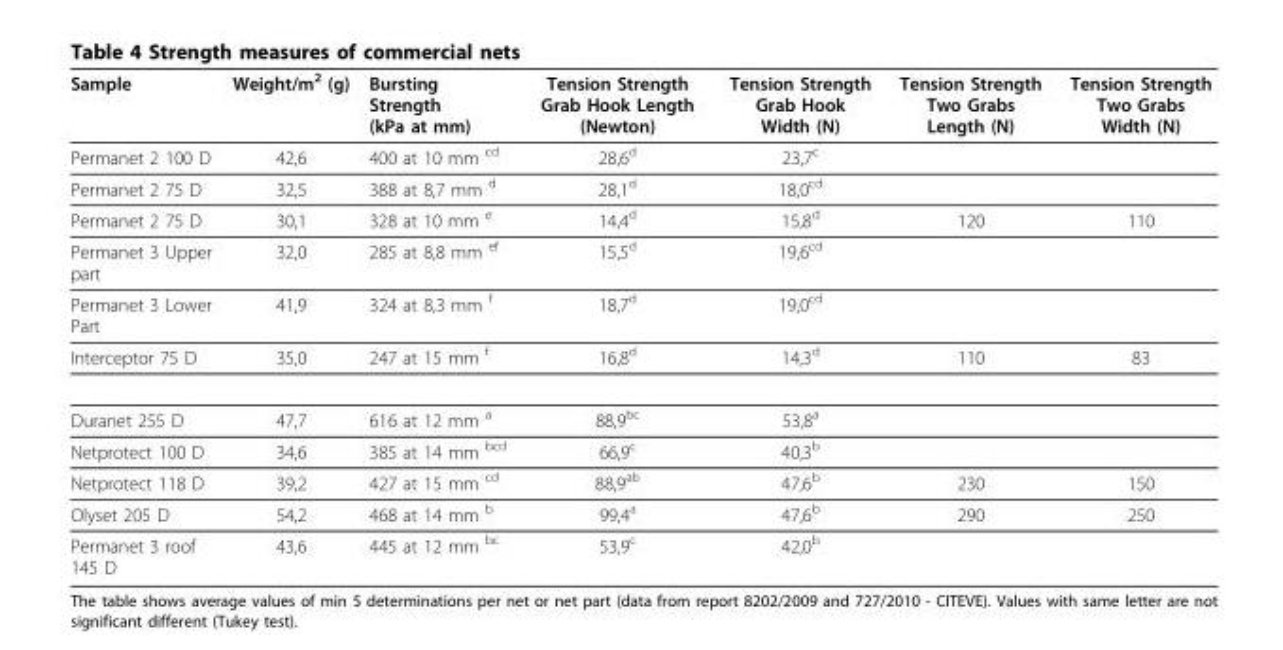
<table><thead><tr><td>Sample</td><td>Weight/m<sup>2</sup> (g)</td><td>Bursting Strength (kPa at mm)</td><td>Tension Strength Grab Hook Length (Newton)</td><td>Tension Strength Grab Hook Width (N)</td><td>Tension Strength Two Grabs Length (N)</td><td>Tension Strength Two Grabs Width (N)</td></tr></thead><tbody><tr><td>Permanet 2 100 D</td><td>42,6</td><td>400 at 10 mm <sup>cd</sup></td><td>28,6<sup>d</sup></td><td>23,7<sup>c</sup></td><td></td><td></td></tr><tr><td>Permanet 2 75 D</td><td>32,5</td><td>388 at 8,7 mm <sup>d</sup></td><td>28,1<sup>d</sup></td><td>18,0<sup>cd</sup></td><td></td><td></td></tr><tr><td>Permanet 2 75 D</td><td>30,1</td><td>328 at 10 mm <sup>e</sup></td><td>14,4<sup>d</sup></td><td>15,8<sup>d</sup></td><td>120</td><td>110</td></tr><tr><td>Permanet 3 Upper part</td><td>32,0</td><td>285 at 8,8 mm <sup>ef</sup></td><td>15,5<sup>d</sup></td><td>19,6<sup>cd</sup></td><td></td><td></td></tr><tr><td>Permanet 3 Lower Part</td><td>41,9</td><td>324 at 8,3 mm <sup>f</sup></td><td>18,7<sup>d</sup></td><td>19,0<sup>cd</sup></td><td></td><td></td></tr><tr><td>Interceptor 75 D</td><td>35,0</td><td>247 at 15 mm <sup>f</sup></td><td>16,8<sup>d</sup></td><td>14,3<sup>d</sup></td><td>110</td><td>83</td></tr><tr><td>Duranet 255 D</td><td>47,7</td><td>616 at 12 mm a</td><td>88,9bc</td><td>53,8a</td><td></td><td></td></tr><tr><td>Netprotect 100 D</td><td>34,6</td><td>385 at 14 mm bcd</td><td>66,9c</td><td>40,3b</td><td></td><td></td></tr><tr><td>Netprotect 118 D</td><td>39,2</td><td>427 at 15 mm cd</td><td>88,9ab</td><td>47,6b</td><td>230</td><td>150</td></tr><tr><td>Olyset 205 D</td><td>54,2</td><td>468 at 14 mm b</td><td>99,4a</td><td>47,6b</td><td>290</td><td>250</td></tr><tr><td>Permanet 3 roof 145 D</td><td>43,6</td><td>445 at 12 mm bc</td><td>53,9c</td><td>42,0b</td><td></td><td></td></tr></tbody></table>